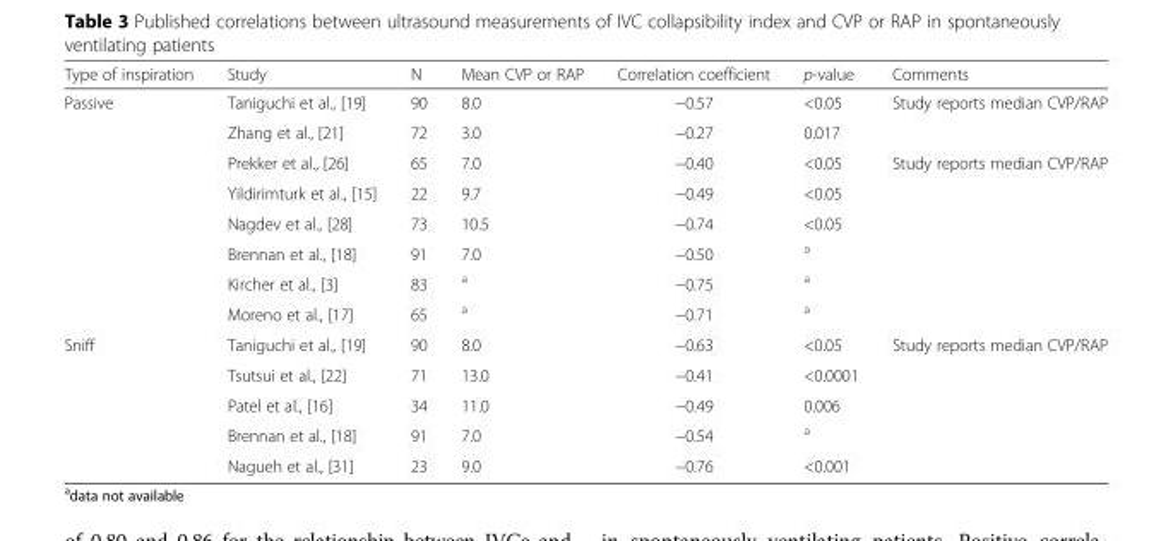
<table><thead><tr><td>Type of inspiration</td><td>Study</td><td>N</td><td>Mean CVP or RAP</td><td>Correlation coefficient</td><td>p-value</td><td>Comments</td></tr></thead><tbody><tr><td rowspan="8">Passive</td><td>Taniguchi et al., [19]</td><td>90</td><td>8.0</td><td>−0.57</td><td>&lt;0.05</td><td>Study reports median CVP/RAP</td></tr><tr><td>Zhang et al., [21]</td><td>72</td><td>3.0</td><td>−0.27</td><td>0.017</td><td></td></tr><tr><td>Prekker et al., [26]</td><td>65</td><td>7.0</td><td>−0.40</td><td>&lt;0.05</td><td>Study reports median CVP/RAP</td></tr><tr><td>Yildirimturk et al., [15]</td><td>22</td><td>9.7</td><td>−0.49</td><td>&lt;0.05</td><td></td></tr><tr><td>Nagdev et al., [28]</td><td>73</td><td>10.5</td><td>−0.74</td><td>&lt;0.05</td><td></td></tr><tr><td>Brennan et al., [18]</td><td>91</td><td>7.0</td><td>−0.50</td><td><sup>a</sup></td><td></td></tr><tr><td>Kircher et al., [3]</td><td>83</td><td><sup>a</sup></td><td>−0.75</td><td><sup>a</sup></td><td></td></tr><tr><td>Moreno et al., [17]</td><td>65</td><td><sup>a</sup></td><td>−0.71</td><td><sup>a</sup></td><td></td></tr><tr><td rowspan="5">Sniff</td><td>Taniguchi et al., [19]</td><td>90</td><td>8.0</td><td>−0.63</td><td>&lt;0.05</td><td>Study reports median CVP/RAP</td></tr><tr><td>Tsutsui et al., [22]</td><td>71</td><td>13.0</td><td>−0.41</td><td>&lt;0.0001</td><td></td></tr><tr><td>Patel et al., [16]</td><td>34</td><td>11.0</td><td>−0.49</td><td>0.006</td><td></td></tr><tr><td>Brennan et al., [18]</td><td>91</td><td>7.0</td><td>−0.54</td><td><sup>a</sup></td><td></td></tr><tr><td>Nagueh et al., [31]</td><td>23</td><td>9.0</td><td>−0.76</td><td>&lt;0.001</td><td></td></tr></tbody></table>